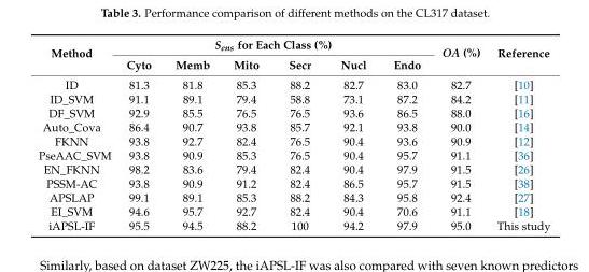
<table><thead><tr><td rowspan="2">Method</td><td colspan="6">S<sub>ens</sub> for Each Class (%)</td><td rowspan="2">OA (%)</td><td rowspan="2">Reference</td></tr><tr><td>Cyto</td><td>Memb</td><td>Mito</td><td>Secr</td><td>Nucl</td><td>Endo</td></tr></thead><tbody><tr><td>ID</td><td>81.3</td><td>81.8</td><td>85.3</td><td>88.2</td><td>82.7</td><td>83.0</td><td>82.7</td><td>[10]</td></tr><tr><td>ID_SVM</td><td>91.1</td><td>89.1</td><td>79.4</td><td>58.8</td><td>73.1</td><td>87.2</td><td>84.2</td><td>[11]</td></tr><tr><td>DF_SVM</td><td>92.9</td><td>85.5</td><td>76.5</td><td>76.5</td><td>93.6</td><td>86.5</td><td>88.0</td><td>[16]</td></tr><tr><td>Auto_Cova</td><td>86.4</td><td>90.7</td><td>93.8</td><td>85.7</td><td>92.1</td><td>93.8</td><td>90.0</td><td>[14]</td></tr><tr><td>FKNN</td><td>93.8</td><td>92.7</td><td>82.4</td><td>76.5</td><td>90.4</td><td>93.6</td><td>90.9</td><td>[12]</td></tr><tr><td>PseAAC_SVM</td><td>93.8</td><td>90.9</td><td>85.3</td><td>76.5</td><td>90.4</td><td>95.7</td><td>91.1</td><td>[36]</td></tr><tr><td>EN_FKNN</td><td>98.2</td><td>83.6</td><td>79.4</td><td>82.4</td><td>90.4</td><td>97.9</td><td>91.5</td><td>[26]</td></tr><tr><td>PSSM-AC</td><td>93.8</td><td>90.9</td><td>91.2</td><td>82.4</td><td>86.5</td><td>95.7</td><td>91.5</td><td>[38]</td></tr><tr><td>APSLAP</td><td>99.1</td><td>89.1</td><td>85.3</td><td>88.2</td><td>84.3</td><td>95.8</td><td>92.4</td><td>[27]</td></tr><tr><td>EI_SVM</td><td>94.6</td><td>95.7</td><td>92.7</td><td>82.4</td><td>90.4</td><td>70.6</td><td>91.1</td><td>[18]</td></tr><tr><td>iAPSL-IF</td><td>95.5</td><td>94.5</td><td>88.2</td><td>100</td><td>94.2</td><td>97.9</td><td>95.0</td><td>This study</td></tr></tbody></table>